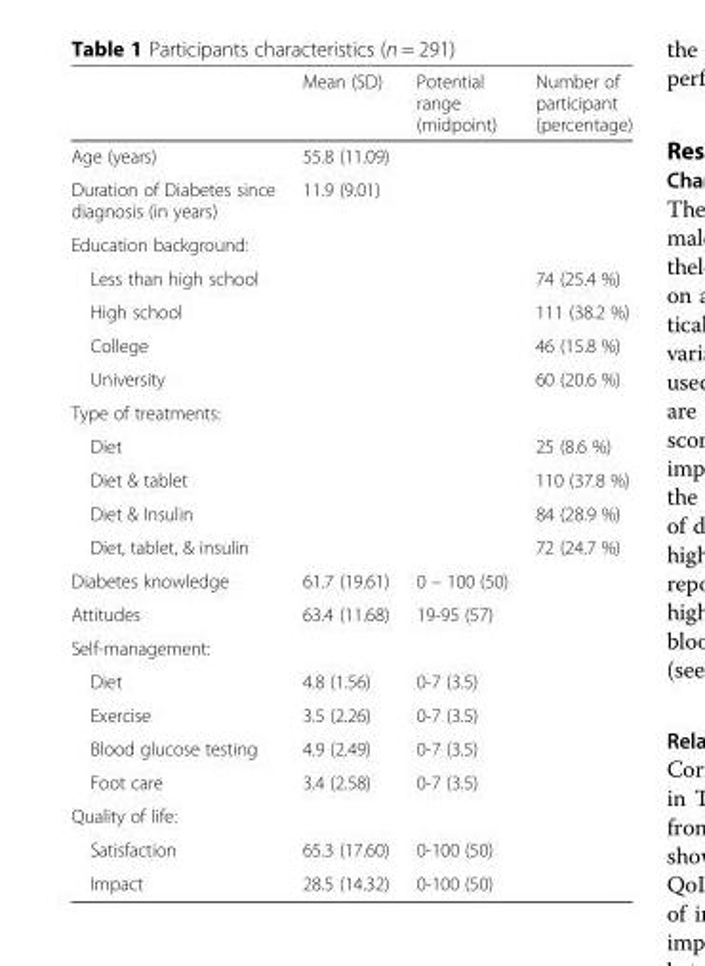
<table><thead><tr><td></td><td>Mean (SD)</td><td>Potential range (midpoint)</td><td>Number of participant (percentage)</td></tr></thead><tbody><tr><td>Age (years)</td><td>55.8 (11.09)</td><td></td><td></td></tr><tr><td>Duration of Diabetes since diagnosis (in years)</td><td>11.9 (9.01)</td><td></td><td></td></tr><tr><td colspan="4">Education background:</td></tr><tr><td>Less than high school</td><td></td><td></td><td>74 (25.4 %)</td></tr><tr><td>High school</td><td></td><td></td><td>111 (38.2 %)</td></tr><tr><td>College</td><td></td><td></td><td>46 (15.8 %)</td></tr><tr><td>University</td><td></td><td></td><td>60 (20.6 %)</td></tr><tr><td colspan="4">Type of treatments:</td></tr><tr><td>Diet</td><td></td><td></td><td>25 (8.6 %)</td></tr><tr><td>Diet &amp; tablet</td><td></td><td></td><td>110 (37.8 %)</td></tr><tr><td>Diet &amp; Insulin</td><td></td><td></td><td>84 (28.9 %)</td></tr><tr><td>Diet, tablet, &amp; insulin</td><td></td><td></td><td>72 (24.7 %)</td></tr><tr><td>Diabetes knowledge</td><td>61.7 (19.61)</td><td>0 – 100 (50)</td><td></td></tr><tr><td>Attitudes</td><td>63.4 (11.68)</td><td>19-95 (57)</td><td></td></tr><tr><td colspan="4">Self-management:</td></tr><tr><td>Diet</td><td>4.8 (1.56)</td><td>0-7 (3.5)</td><td></td></tr><tr><td>Exercise</td><td>3.5 (2.26)</td><td>0-7 (3.5)</td><td></td></tr><tr><td>Blood glucose testing</td><td>4.9 (2.49)</td><td>0-7 (3.5)</td><td></td></tr><tr><td>Foot care</td><td>3.4 (2.58)</td><td>0-7 (3.5)</td><td></td></tr><tr><td colspan="4">Quality of life:</td></tr><tr><td>Satisfaction</td><td>65.3 (17.60)</td><td>0-100 (50)</td><td></td></tr><tr><td>Impact</td><td>28.5 (14.32)</td><td>0-100 (50)</td><td></td></tr></tbody></table>